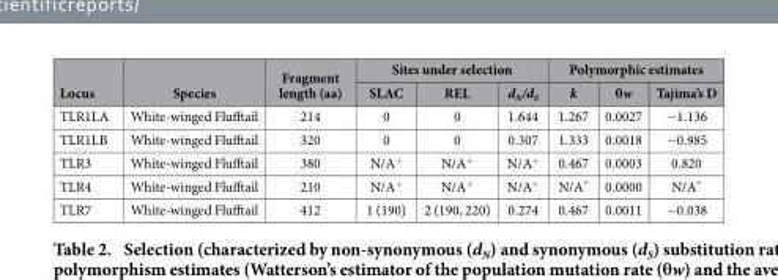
<table><thead><tr><td rowspan="2">Locus</td><td rowspan="2">Species</td><td rowspan="2">Fragment length (aa)</td><td colspan="3">Sites under selection</td><td colspan="3">Polymorphic estimates</td></tr><tr><td>SLAC</td><td>REL</td><td>d<sub>N</sub>/d<sub>S</sub></td><td>k</td><td>θw</td><td>Tajima’s D</td></tr></thead><tbody><tr><td>TLR1LA</td><td>White-winged Flufftail</td><td>214</td><td>0</td><td>0</td><td>1.644</td><td>1.267</td><td>0.0027</td><td>− 1.136</td></tr><tr><td>TLR1LB</td><td>White-winged Flufftail</td><td>320</td><td>0</td><td>0</td><td>0.307</td><td>1.333</td><td>0.0018</td><td>− 0.985</td></tr><tr><td>TLR3</td><td>White-winged Flufftail</td><td>380</td><td>N/A<sup>+</sup></td><td>N/A<sup>+</sup></td><td>N/A<sup>+</sup></td><td>0.467</td><td>0.0003</td><td>0.820</td></tr><tr><td>TLR4</td><td>White-winged Flufftail</td><td>210</td><td>N/A<sup>+</sup></td><td>N/A<sup>+</sup></td><td>N/A<sup>+</sup></td><td>N/A<sup>^</sup></td><td>0.0000</td><td>N/A<sup>^</sup></td></tr><tr><td>TLR7</td><td>White-winged Flufftail</td><td>412</td><td>1 (190)</td><td>2 (190, 220)</td><td>0.274</td><td>0.467</td><td>0.0011</td><td>− 0.038</td></tr></tbody></table>